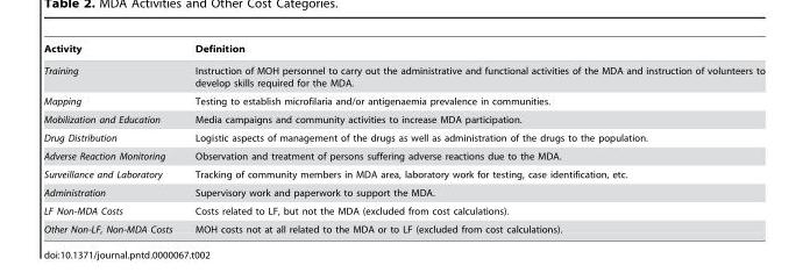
<table><thead><tr><td>Activity</td><td>Definition</td></tr></thead><tbody><tr><td>Training</td><td>Instruction of MOH personnel to carry out the administrative and functional activities of the MDA and instruction of volunteers to develop skills required for the MDA.</td></tr><tr><td>Mapping</td><td>Testing to establish microfilaria and/or antigenaemia prevalence in communities.</td></tr><tr><td>Mobilization and Education</td><td>Media campaigns and community activities to increase MDA participation.</td></tr><tr><td>Drug Distribution</td><td>Logistic aspects of management of the drugs as well as administration of the drugs to the population.</td></tr><tr><td>Adverse Reaction Monitoring</td><td>Observation and treatment of persons suffering adverse reactions due to the MDA.</td></tr><tr><td>Surveillance and Laboratory</td><td>Tracking of community members in MDA area, laboratory work for testing, case identification, etc.</td></tr><tr><td>Administration</td><td>Supervisory work and paperwork to support the MDA.</td></tr><tr><td>LF Non-MDA Costs</td><td>Costs related to LF, but not the MDA (excluded from cost calculations).</td></tr><tr><td>Other Non-LF, Non-MDA Costs</td><td>MOH costs not at all related to the MDA or to LF (excluded from cost calculations).</td></tr></tbody></table>